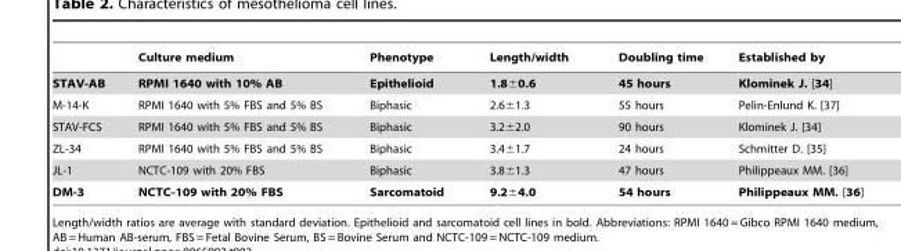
<table><thead><tr><td></td><td>Culture medium</td><td>Phenotype</td><td>Length/width</td><td>Doubling time</td><td>Established by</td></tr></thead><tbody><tr><td>STAV-AB</td><td>RPMI 1640 with 10% AB</td><td>Epithelioid</td><td>1.8±0.6</td><td>45 hours</td><td>Klominek J. [34]</td></tr><tr><td>M-14-K</td><td>RPMI 1640 with 5% FBS and 5% BS</td><td>Biphasic</td><td>2.6±1.3</td><td>55 hours</td><td>Pelin-Enlund K. [37]</td></tr><tr><td>STAV-FCS</td><td>RPMI 1640 with 5% FBS and 5% BS</td><td>Biphasic</td><td>3.2±2.0</td><td>90 hours</td><td>Klominek J. [34]</td></tr><tr><td>ZL-34</td><td>RPMI 1640 with 5% FBS and 5% BS</td><td>Biphasic</td><td>3.4±1.7</td><td>24 hours</td><td>Schmitter D. [35]</td></tr><tr><td>JL-1</td><td>NCTC-109 with 20% FBS</td><td>Biphasic</td><td>3.8±1.3</td><td>47 hours</td><td>Philippeaux MM. [36]</td></tr><tr><td>DM-3</td><td>NCTC-109 with 20% FBS</td><td>Sarcomatoid</td><td>9.2±4.0</td><td>54 hours</td><td>Philippeaux MM.</td></tr></tbody></table>